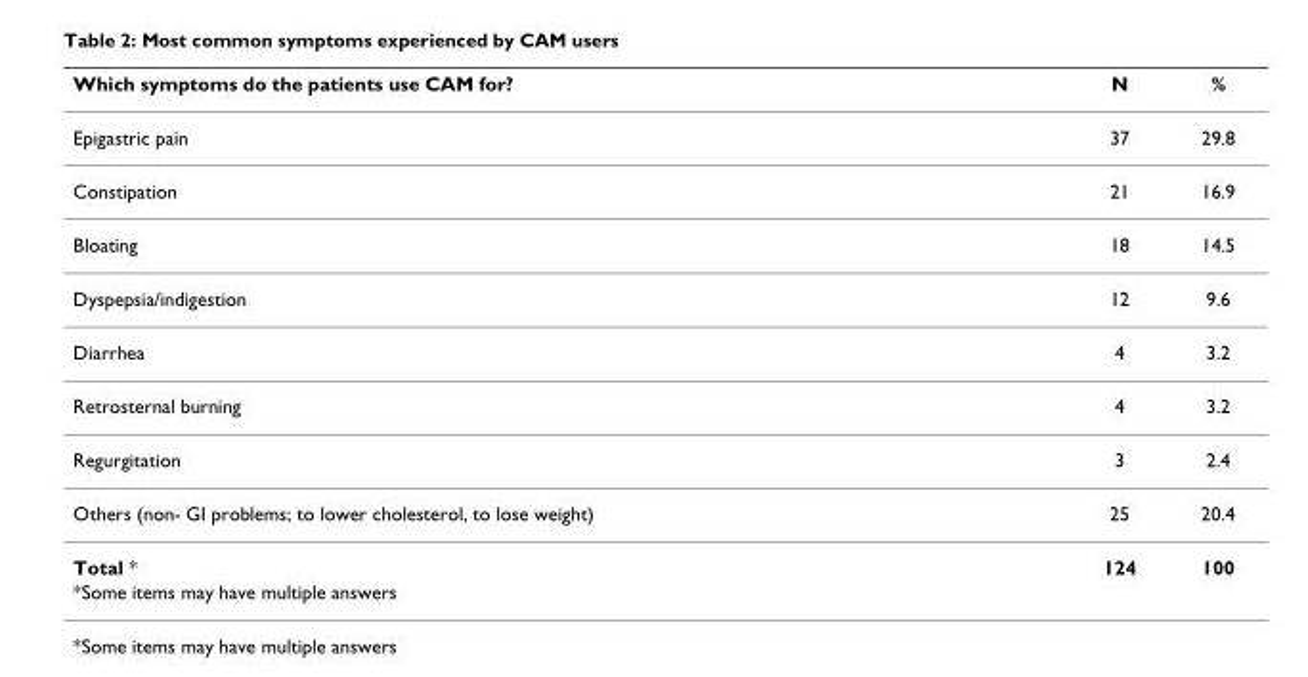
<table><thead><tr><td>Which symptoms do the patients use CAM for?</td><td>N</td><td>%</td></tr></thead><tbody><tr><td>Epigastric pain</td><td>37</td><td>29.8</td></tr><tr><td>Constipation</td><td>21</td><td>16.9</td></tr><tr><td>Bloating</td><td>18</td><td>14.5</td></tr><tr><td>Dyspepsia/indigestion</td><td>12</td><td>9.6</td></tr><tr><td>Diarrhea</td><td>4</td><td>3.2</td></tr><tr><td>Retrosternal burning</td><td>4</td><td>3.2</td></tr><tr><td>Regurgitation</td><td>3</td><td>2.4</td></tr><tr><td>Others (non- GI problems; to lower cholesterol, to lose weight)</td><td>25</td><td>20.4</td></tr><tr><td>Total *</td><td>124</td><td>100</td></tr><tr><td>*Some items may have multiple answers</td><td></td><td></td></tr></tbody></table>